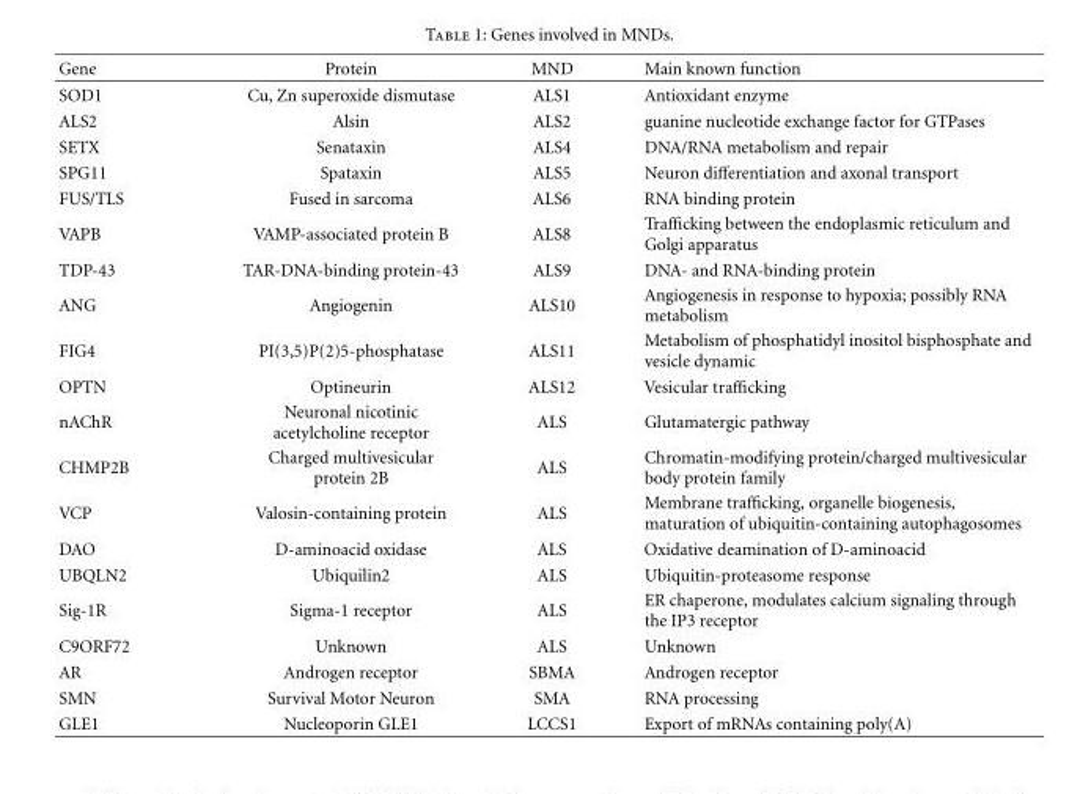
<table><thead><tr><td>Gene</td><td>Protein</td><td>MND</td><td>Main known function</td></tr></thead><tbody><tr><td>SOD1</td><td>Cu, Zn superoxide dismutase</td><td>ALS1</td><td>Antioxidant enzyme</td></tr><tr><td>ALS2</td><td>Alsin</td><td>ALS2</td><td>guanine nucleotide exchange factor for GTPases</td></tr><tr><td>SETX</td><td>Senataxin</td><td>ALS4</td><td>DNA/RNA metabolism and repair</td></tr><tr><td>SPG11</td><td>Spataxin</td><td>ALS5</td><td>Neuron differentiation and axonal transport</td></tr><tr><td>FUS/TLS</td><td>Fused in sarcoma</td><td>ALS6</td><td>RNA binding protein</td></tr><tr><td>VAPB</td><td>VAMP-associated protein B</td><td>ALS8</td><td>Trafficking between the endoplasmic reticulum and Golgi apparatus</td></tr><tr><td>TDP-43</td><td>TAR-DNA-binding protein-43</td><td>ALS9</td><td>DNA- and RNA-binding protein</td></tr><tr><td>ANG</td><td>Angiogenin</td><td>ALS10</td><td>Angiogenesis in response to hypoxia; possibly RNA metabolism</td></tr><tr><td>FIG4</td><td>PI(3,5)P(2)5-phosphatase</td><td>ALS11</td><td>Metabolism of phosphatidyl inositol bisphosphate and vesicle dynamic</td></tr><tr><td>OPTN</td><td>Optineurin</td><td>ALS12</td><td>Vesicular trafficking</td></tr><tr><td>nAChR</td><td>Neuronal nicotinic acetylcholine receptor</td><td>ALS</td><td>Glutamatergic pathway</td></tr><tr><td>CHMP2B</td><td>Charged multivesicular protein 2B</td><td>ALS</td><td>Chromatin-modifying protein/charged multivesicular body protein family</td></tr><tr><td>VCP</td><td>Valosin-containing protein</td><td>ALS</td><td>Membrane trafficking, organelle biogenesis, maturation of ubiquitin-containing autophagosomes</td></tr><tr><td>DAO</td><td>D-aminoacid oxidase</td><td>ALS</td><td>Oxidative deamination of D-aminoacid</td></tr><tr><td>UBQLN2</td><td>Ubiquilin2</td><td>ALS</td><td>Ubiquitin-proteasome response</td></tr><tr><td>Sig-1R</td><td>Sigma-1 receptor</td><td>ALS</td><td>ER chaperone, modulates calcium signaling through the IP3 receptor</td></tr><tr><td>C9ORF72</td><td>Unknown</td><td>ALS</td><td>Unknown</td></tr><tr><td>AR</td><td>Androgen receptor</td><td>SBMA</td><td>Androgen receptor</td></tr><tr><td>SMN</td><td>Survival Motor Neuron</td><td>SMA</td><td>RNA processing</td></tr><tr><td>GLE1</td><td>Nucleoporin GLE1</td><td>LCCS1</td><td>Export of mRNAs containing poly(A)</td></tr></tbody></table>